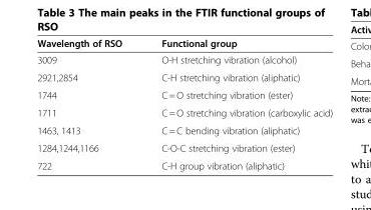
<table><thead><tr><td>Wavelength of RSO</td><td>Functional group</td></tr></thead><tbody><tr><td>3009</td><td>O-H stretching vibration (alcohol)</td></tr><tr><td>2921,2854</td><td>C-H stretching vibration (aliphatic)</td></tr><tr><td>1744</td><td>C = O stretching vibration (ester)</td></tr><tr><td>1711</td><td>C = O stretching vibration (carboxylic acid)</td></tr><tr><td>1463, 1413</td><td>C = C bending vibration (aliphatic)</td></tr><tr><td>1284,1244,1166</td><td>C-O-C stretching vibration (ester)</td></tr><tr><td>722</td><td>C-H group vibration (aliphatic)</td></tr></tbody></table>